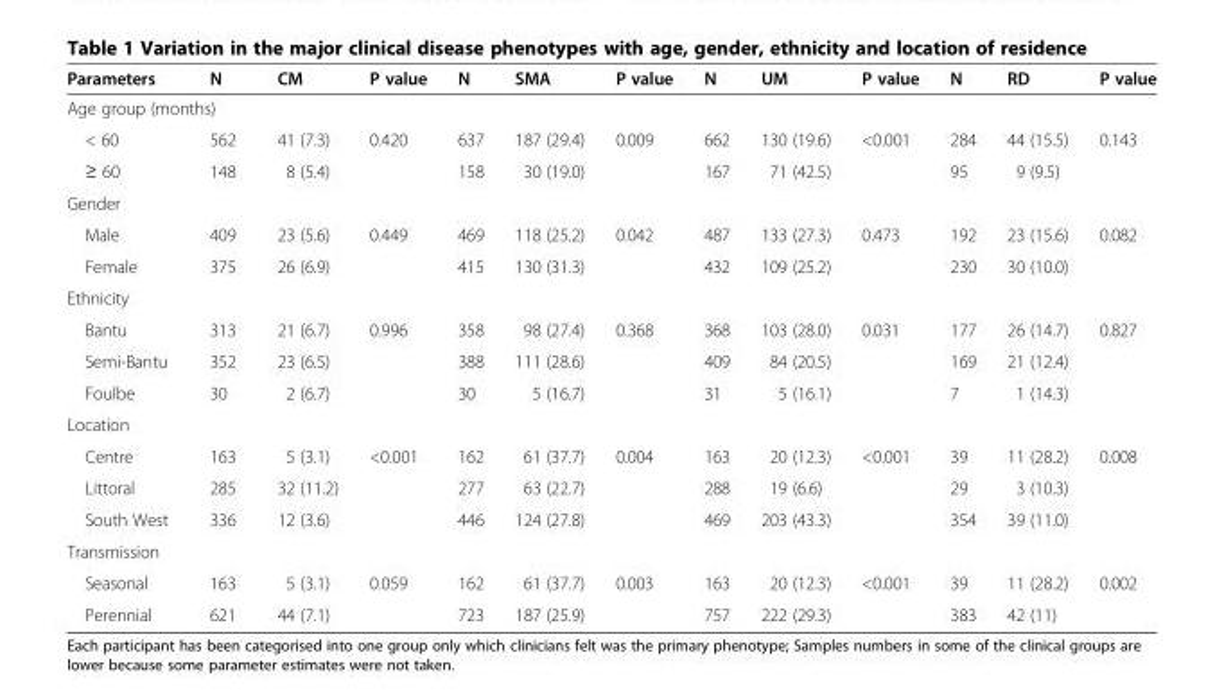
<table><thead><tr><td>Parameters</td><td>N</td><td>CM</td><td>P value</td><td>N</td><td>SMA</td><td>P value</td><td>N</td><td>UM</td><td>P value</td><td>N</td><td>RD</td><td>P value</td></tr></thead><tbody><tr><td colspan="13">Age group (months)</td></tr><tr><td>&lt; 60</td><td>562</td><td>41 (7.3)</td><td rowspan="2">0.420</td><td>637</td><td>187 (29.4)</td><td rowspan="2">0.009</td><td>662</td><td>130 (19.6)</td><td rowspan="2">&lt;0.001</td><td>284</td><td>44 (15.5)</td><td rowspan="2">0.143</td></tr><tr><td>≥ 60</td><td>148</td><td>8 (5.4)</td><td>158</td><td>30 (19.0)</td><td>167</td><td>71 (42.5)</td><td>95</td><td>9 (9.5)</td></tr><tr><td colspan="13">Gender</td></tr><tr><td>Male</td><td>409</td><td>23 (5.6)</td><td rowspan="2">0.449</td><td>469</td><td>118 (25.2)</td><td rowspan="2">0.042</td><td>487</td><td>133 (27.3)</td><td rowspan="2">0.473</td><td>192</td><td>23 (15.6)</td><td rowspan="2">0.082</td></tr><tr><td>Female</td><td>375</td><td>26 (6.9)</td><td>415</td><td>130 (31.3)</td><td>432</td><td>109 (25.2)</td><td>230</td><td>30 (10.0)</td></tr><tr><td colspan="13">Ethnicity</td></tr><tr><td>Bantu</td><td>313</td><td>21 (6.7)</td><td rowspan="3">0.996</td><td>358</td><td>98 (27.4)</td><td rowspan="3">0.368</td><td>368</td><td>103 (28.0)</td><td rowspan="3">0.031</td><td>177</td><td>26 (14.7)</td><td rowspan="3">0.827</td></tr><tr><td>Semi-Bantu</td><td>352</td><td>23 (6.5)</td><td>388</td><td>111 (28.6)</td><td>409</td><td>84 (20.5)</td><td>169</td><td>21 (12.4)</td></tr><tr><td>Foulbe</td><td>30</td><td>2 (6.7)</td><td>30</td><td>5 (16.7)</td><td>31</td><td>5 (16.1)</td><td>7</td><td>1 (14.3)</td></tr><tr><td colspan="13">Location</td></tr><tr><td>Centre</td><td>163</td><td>5 (3.1)</td><td rowspan="3">&lt;0.001</td><td>162</td><td>61 (37.7)</td><td rowspan="3">0.004</td><td>163</td><td>20 (12.3)</td><td rowspan="3">&lt;0.001</td><td>39</td><td>11 (28.2)</td><td rowspan="3">0.008</td></tr><tr><td>Littoral</td><td>285</td><td>32 (11.2)</td><td>277</td><td>63 (22.7)</td><td>288</td><td>19 (6.6)</td><td>29</td><td>3 (10.3)</td></tr><tr><td>South West</td><td>336</td><td>12 (3.6)</td><td>446</td><td>124 (27.8)</td><td>469</td><td>203 (43.3)</td><td>354</td><td>39 (11.0)</td></tr><tr><td colspan="13">Transmission</td></tr><tr><td>Seasonal</td><td>163</td><td>5 (3.1)</td><td>0.059</td><td>162</td><td>61 (37.7)</td><td>0.003</td><td>163</td><td>20 (12.3)</td><td>&lt;0.001</td><td>39</td><td>11 (28.2)</td><td>0.002</td></tr><tr><td>Perennial</td><td>621</td><td>44 (7.1)</td><td></td><td>723</td><td>187 (25.9)</td><td></td><td>757</td><td>222 (29.3)</td><td></td><td>383</td><td>42 (11)</td><td></td></tr></tbody></table>